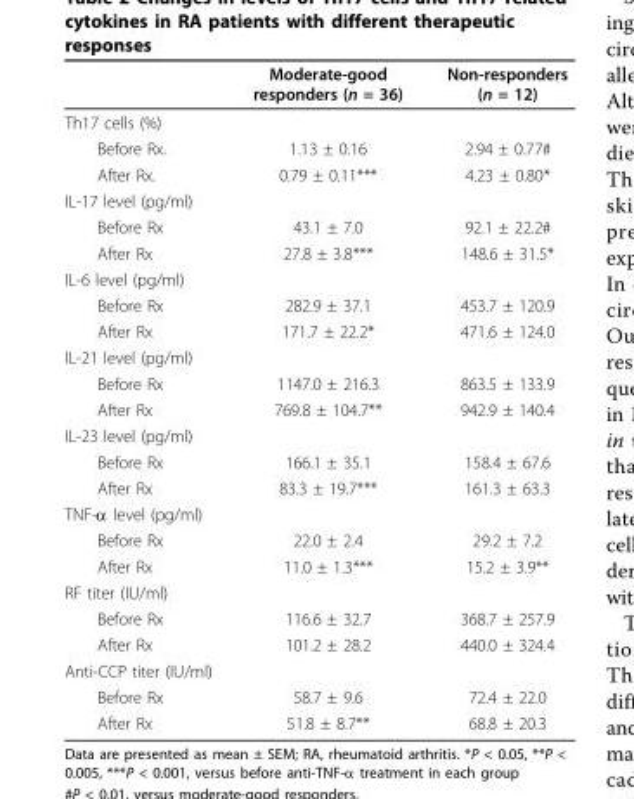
<table><thead><tr><td></td><td>Moderate-good responders (n = 36)</td><td>Non-responders (n = 12)</td></tr></thead><tbody><tr><td colspan="3">Th17 cells (%)</td></tr><tr><td>Before Rx.</td><td>1.13 ± 0.16</td><td>2.94 ± 0.77#</td></tr><tr><td>After Rx.</td><td>0.79 ± 0.11***</td><td>4.23 ± 0.80*</td></tr><tr><td colspan="3">IL-17 level (pg/ml)</td></tr><tr><td>Before Rx</td><td>43.1 ± 7.0</td><td>92.1 ± 22.2#</td></tr><tr><td>After Rx</td><td>27.8 ± 3.8***</td><td>148.6 ± 31.5*</td></tr><tr><td colspan="3">IL-6 level (pg/ml)</td></tr><tr><td>Before Rx</td><td>282.9 ± 37.1</td><td>453.7 ± 120.9</td></tr><tr><td>After Rx</td><td>171.7 ± 22.2*</td><td>471.6 ± 124.0</td></tr><tr><td colspan="3">IL-21 level (pg/ml)</td></tr><tr><td>Before Rx</td><td>1147.0 ± 216.3</td><td>863.5 ± 133.9</td></tr><tr><td>After Rx</td><td>769.8 ± 104.7**</td><td>942.9 ± 140.4</td></tr><tr><td colspan="3">IL-23 level (pg/ml)</td></tr><tr><td>Before Rx</td><td>166.1 ± 35.1</td><td>158.4 ± 67.6</td></tr><tr><td>After Rx</td><td>83.3 ± 19.7***</td><td>161.3 ± 63.3</td></tr><tr><td colspan="3">TNF-α level (pg/ml)</td></tr><tr><td>Before Rx</td><td>22.0 ± 2.4</td><td>29.2 ± 7.2</td></tr><tr><td>After Rx</td><td>11.0 ± 1.3***</td><td>15.2 ± 3.9**</td></tr><tr><td colspan="3">RF titer (IU/ml)</td></tr><tr><td>Before Rx</td><td>116.6 ± 32.7</td><td>368.7 ± 257.9</td></tr><tr><td>After Rx</td><td>101.2 ± 28.2</td><td>440.0 ± 324.4</td></tr><tr><td colspan="3">Anti-CCP titer (IU/ml)</td></tr><tr><td>Before Rx</td><td>58.7 ± 9.6</td><td>72.4 ± 22.0</td></tr><tr><td>After Rx</td><td>51.8 ± 8.7**</td><td>68.8 ± 20.3</td></tr></tbody></table>